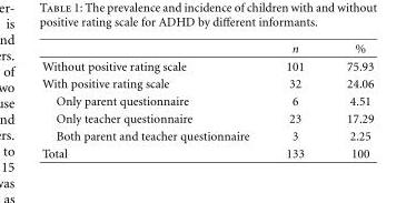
<table><thead><tr><td></td><td>n</td><td>%</td></tr></thead><tbody><tr><td>Without positive rating scale</td><td>101</td><td>75.93</td></tr><tr><td>With positive rating scale</td><td>32</td><td>24.06</td></tr><tr><td>Only parent questionnaire</td><td>6</td><td>4.51</td></tr><tr><td>Only teacher questionnaire</td><td>23</td><td>17.29</td></tr><tr><td>Both parent and teacher questionnaire</td><td>3</td><td>2.25</td></tr><tr><td>Total</td><td>133</td><td>100</td></tr></tbody></table>